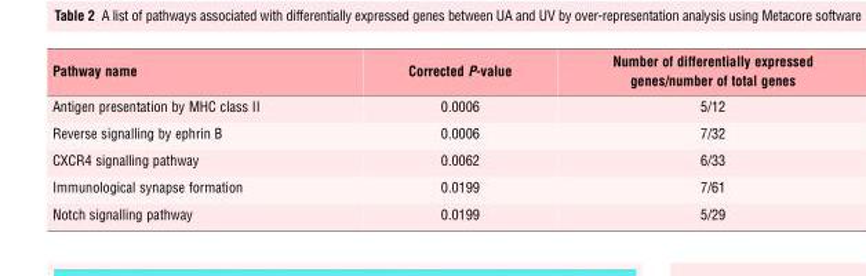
<table><thead><tr><td>Pathway name</td><td>Corrected P-value</td><td>Number of differentially expressed genes/number of total genes</td></tr></thead><tbody><tr><td>Antigen presentation by MHC class II</td><td>0.0006</td><td>5/12</td></tr><tr><td>Reverse signalling by ephrin B</td><td>0.0006</td><td>7/32</td></tr><tr><td>CXCR4 signalling pathway</td><td>0.0062</td><td>6/33</td></tr><tr><td>Immunological synapse formation</td><td>0.0199</td><td>7/61</td></tr><tr><td>Notch signalling pathway</td><td>0.0199</td><td>5/29</td></tr></tbody></table>